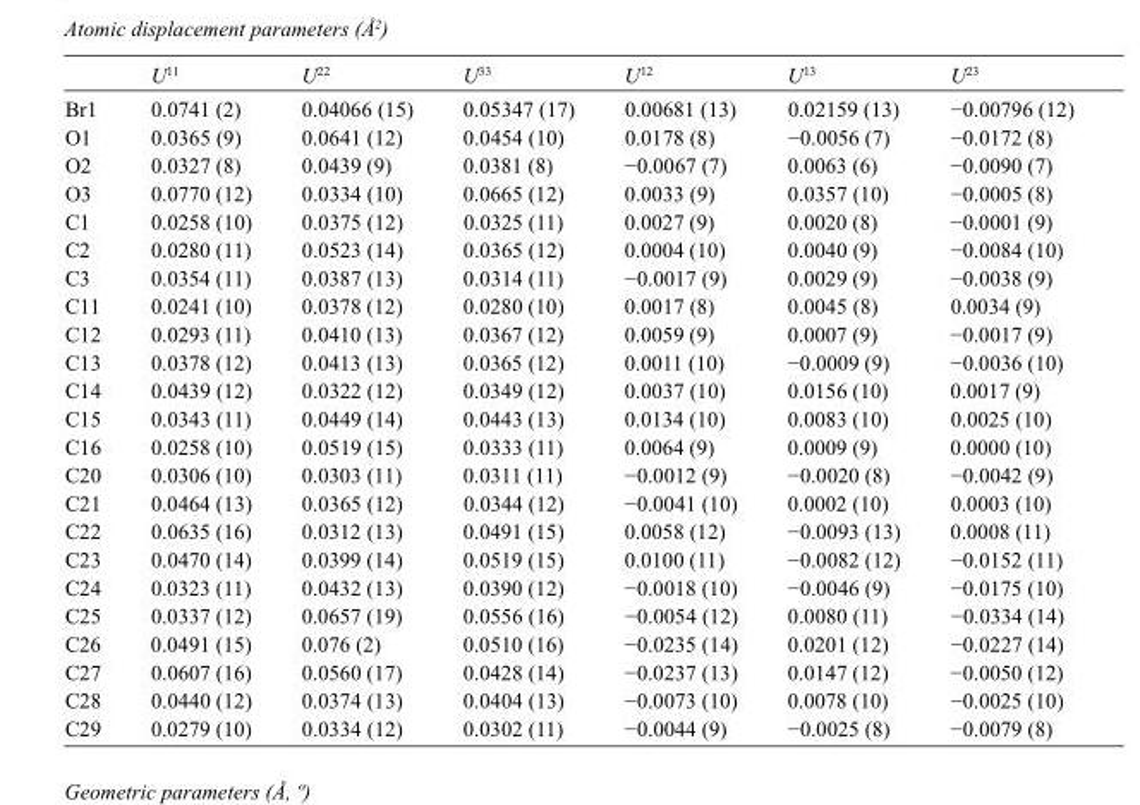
<table><thead><tr><td></td><td>U<sup>11</sup></td><td>U<sup>22</sup></td><td>U<sup>33</sup></td><td>U<sup>12</sup></td><td>U<sup>13</sup></td><td>U<sup>23</sup></td></tr></thead><tbody><tr><td>Br1</td><td>0.0741 (2)</td><td>0.04066 (15)</td><td>0.05347 (17)</td><td>0.00681 (13)</td><td>0.02159 (13)</td><td>−0.00796 (12)</td></tr><tr><td>O1</td><td>0.0365 (9)</td><td>0.0641 (12)</td><td>0.0454 (10)</td><td>0.0178 (8)</td><td>−0.0056 (7)</td><td>−0.0172 (8)</td></tr><tr><td>O2</td><td>0.0327 (8)</td><td>0.0439 (9)</td><td>0.0381 (8)</td><td>−0.0067 (7)</td><td>0.0063 (6)</td><td>−0.0090 (7)</td></tr><tr><td>O3</td><td>0.0770 (12)</td><td>0.0334 (10)</td><td>0.0665 (12)</td><td>0.0033 (9)</td><td>0.0357 (10)</td><td>−0.0005 (8)</td></tr><tr><td>C1</td><td>0.0258 (10)</td><td>0.0375 (12)</td><td>0.0325 (11)</td><td>0.0027 (9)</td><td>0.0020 (8)</td><td>−0.0001 (9)</td></tr><tr><td>C2</td><td>0.0280 (11)</td><td>0.0523 (14)</td><td>0.0365 (12)</td><td>0.0004 (10)</td><td>0.0040 (9)</td><td>−0.0084 (10)</td></tr><tr><td>C3</td><td>0.0354 (11)</td><td>0.0387 (13)</td><td>0.0314 (11)</td><td>−0.0017 (9)</td><td>0.0029 (9)</td><td>−0.0038 (9)</td></tr><tr><td>C11</td><td>0.0241 (10)</td><td>0.0378 (12)</td><td>0.0280 (10)</td><td>0.0017 (8)</td><td>0.0045 (8)</td><td>0.0034 (9)</td></tr><tr><td>C12</td><td>0.0293 (11)</td><td>0.0410 (13)</td><td>0.0367 (12)</td><td>0.0059 (9)</td><td>0.0007 (9)</td><td>−0.0017 (9)</td></tr><tr><td>C13</td><td>0.0378 (12)</td><td>0.0413 (13)</td><td>0.0365 (12)</td><td>0.0011 (10)</td><td>−0.0009 (9)</td><td>−0.0036 (10)</td></tr><tr><td>C14</td><td>0.0439 (12)</td><td>0.0322 (12)</td><td>0.0349 (12)</td><td>0.0037 (10)</td><td>0.0156 (10)</td><td>0.0017 (9)</td></tr><tr><td>C15</td><td>0.0343 (11)</td><td>0.0449 (14)</td><td>0.0443 (13)</td><td>0.0134 (10)</td><td>0.0083 (10)</td><td>0.0025 (10)</td></tr><tr><td>C16</td><td>0.0258 (10)</td><td>0.0519 (15)</td><td>0.0333 (11)</td><td>0.0064 (9)</td><td>0.0009 (9)</td><td>0.0000 (10)</td></tr><tr><td>C20</td><td>0.0306 (10)</td><td>0.0303 (11)</td><td>0.0311 (11)</td><td>−0.0012 (9)</td><td>−0.0020 (8)</td><td>−0.0042 (9)</td></tr><tr><td>C21</td><td>0.0464 (13)</td><td>0.0365 (12)</td><td>0.0344 (12)</td><td>−0.0041 (10)</td><td>0.0002 (10)</td><td>0.0003 (10)</td></tr><tr><td>C22</td><td>0.0635 (16)</td><td>0.0312 (13)</td><td>0.0491 (15)</td><td>0.0058 (12)</td><td>−0.0093 (13)</td><td>0.0008 (11)</td></tr><tr><td>C23</td><td>0.0470 (14)</td><td>0.0399 (14)</td><td>0.0519 (15)</td><td>0.0100 (11)</td><td>−0.0082 (12)</td><td>−0.0152 (11)</td></tr><tr><td>C24</td><td>0.0323 (11)</td><td>0.0432 (13)</td><td>0.0390 (12)</td><td>−0.0018 (10)</td><td>−0.0046 (9)</td><td>−0.0175 (10)</td></tr><tr><td>C25</td><td>0.0337 (12)</td><td>0.0657 (19)</td><td>0.0556 (16)</td><td>−0.0054 (12)</td><td>0.0080 (11)</td><td>−0.0334 (14)</td></tr><tr><td>C26</td><td>0.0491 (15)</td><td>0.076 (2)</td><td>0.0510 (16)</td><td>−0.0235 (14)</td><td>0.0201 (12)</td><td>−0.0227 (14)</td></tr><tr><td>C27</td><td>0.0607 (16)</td><td>0.0560 (17)</td><td>0.0428 (14)</td><td>−0.0237 (13)</td><td>0.0147 (12)</td><td>−0.0050 (12)</td></tr><tr><td>C28</td><td>0.0440 (12)</td><td>0.0374 (13)</td><td>0.0404 (13)</td><td>−0.0073 (10)</td><td>0.0078 (10)</td><td>−0.0025 (10)</td></tr><tr><td>C29</td><td>0.0279 (10)</td><td>0.0334 (12)</td><td>0.0302 (11)</td><td>−0.0044 (9)</td><td>−0.0025 (8)</td><td>−0.0079 (8)</td></tr></tbody></table>